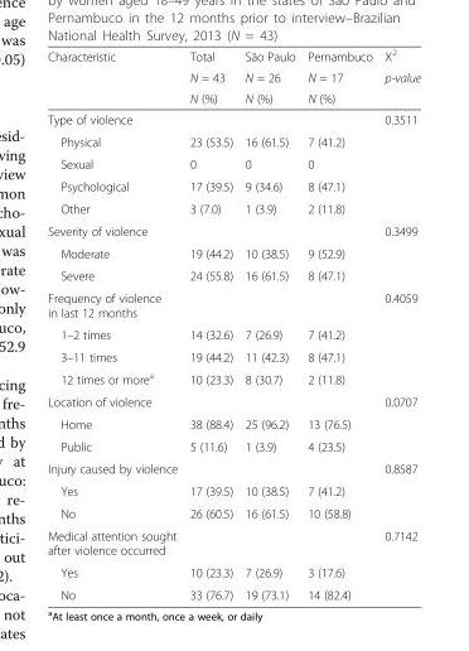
<table><thead><tr><td rowspan="3">Characteristic</td><td rowspan="3">Total N = 43 N (%)</td><td rowspan="3">São Paulo N = 26 N (%)</td><td rowspan="3">Pernambuco N = 17 N (%)</td><td rowspan="3">X<sup>2</sup> p-value</td></tr><tr></tr><tr></tr></thead><tbody><tr><td>Type of violence</td><td></td><td></td><td></td><td>0.3511</td></tr><tr><td>Physical</td><td>23 (53.5)</td><td>16 (61.5)</td><td>7 (41.2)</td><td></td></tr><tr><td>Sexual</td><td>0</td><td>0</td><td>0</td><td></td></tr><tr><td>Psychological</td><td>17 (39.5)</td><td>9 (34.6)</td><td>8 (47.1)</td><td></td></tr><tr><td>Other</td><td>3 (7.0)</td><td>1 (3.9)</td><td>2 (11.8)</td><td></td></tr><tr><td>Severity of violence</td><td></td><td></td><td></td><td>0.3499</td></tr><tr><td>Moderate</td><td>19 (44.2)</td><td>10 (38.5)</td><td>9 (52.9)</td><td></td></tr><tr><td>Severe</td><td>24 (55.8)</td><td>16 (61.5)</td><td>8 (47.1)</td><td></td></tr><tr><td>Frequency of violence in last 12 months</td><td></td><td></td><td></td><td>0.4059</td></tr><tr><td>1–2 times</td><td>14 (32.6)</td><td>7 (26.9)</td><td>7 (41.2)</td><td></td></tr><tr><td>3–11 times</td><td>19 (44.2)</td><td>11 (42.3)</td><td>8 (47.1)</td><td></td></tr><tr><td>12 times or more<sup>a</sup></td><td>10 (23.3)</td><td>8 (30.7)</td><td>2 (11.8)</td><td></td></tr><tr><td>Location of violence</td><td></td><td></td><td></td><td>0.0707</td></tr><tr><td>Home</td><td>38 (88.4)</td><td>25 (96.2)</td><td>13 (76.5)</td><td></td></tr><tr><td>Public</td><td>5 (11.6)</td><td>1 (3.9)</td><td>4 (23.5)</td><td></td></tr><tr><td>Injury caused by violence</td><td></td><td></td><td></td><td>0.8587</td></tr><tr><td>Yes</td><td>17 (39.5)</td><td>10 (38.5)</td><td>7 (41.2)</td><td></td></tr><tr><td>No</td><td>26 (60.5)</td><td>16 (61.5)</td><td>10 (58.8)</td><td></td></tr><tr><td>Medical attention sought after violence occurred</td><td></td><td></td><td></td><td>0.7142</td></tr><tr><td>Yes</td><td>10 (23.3)</td><td>7 (26.9)</td><td>3 (17.6)</td><td></td></tr><tr><td>No</td><td>33 (76.7)</td><td>19 (73.1)</td><td>14 (82.4)</td><td></td></tr></tbody></table>